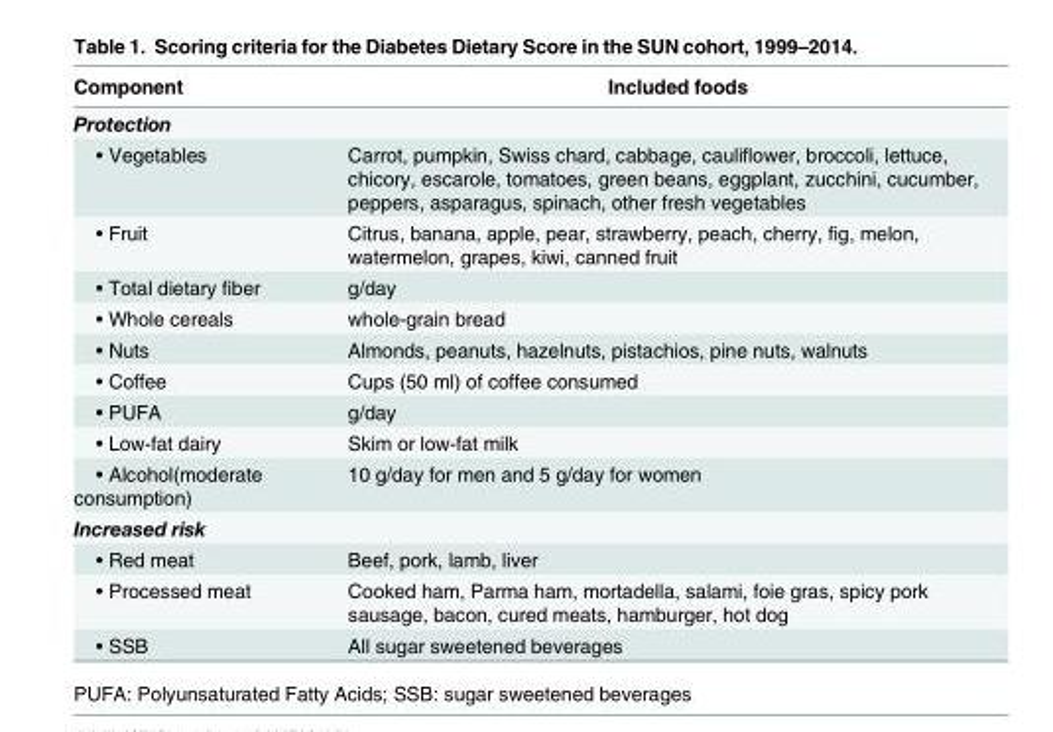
<table><thead><tr><td>Component</td><td>Included foods</td></tr></thead><tbody><tr><td colspan="2">Protection</td></tr><tr><td>• Vegetables</td><td>Carrot, pumpkin, Swiss chard, cabbage, cauliflower, broccoli, lettuce, chicory, escarole, tomatoes, green beans, eggplant, zucchini, cucumber, peppers, asparagus, spinach, other fresh vegetables</td></tr><tr><td>• Fruit</td><td>Citrus, banana, apple, pear, strawberry, peach, cherry, fig, melon, watermelon, grapes, kiwi, canned fruit</td></tr><tr><td>• Total dietary fiber</td><td>g/day</td></tr><tr><td>• Whole cereals</td><td>whole-grain bread</td></tr><tr><td>• Nuts</td><td>Almonds, peanuts, hazelnuts, pistachios, pine nuts, walnuts</td></tr><tr><td>• Coffee</td><td>Cups (50 ml) of coffee consumed</td></tr><tr><td>• PUFA</td><td>g/day</td></tr><tr><td>• Low-fat dairy</td><td>Skim or low-fat milk</td></tr><tr><td>• Alcohol(moderate consumption)</td><td>10 g/day for men and 5 g/day for women</td></tr><tr><td colspan="2">Increased risk</td></tr><tr><td>• Red meat</td><td>Beef, pork, lamb, liver</td></tr><tr><td>• Processed meat</td><td>Cooked ham, Parma ham, mortadella, salami, foie gras, spicy pork sausage, bacon, cured meats, hamburger, hot dog</td></tr><tr><td>• SSB</td><td>All sugar sweetened beverages</td></tr></tbody></table>